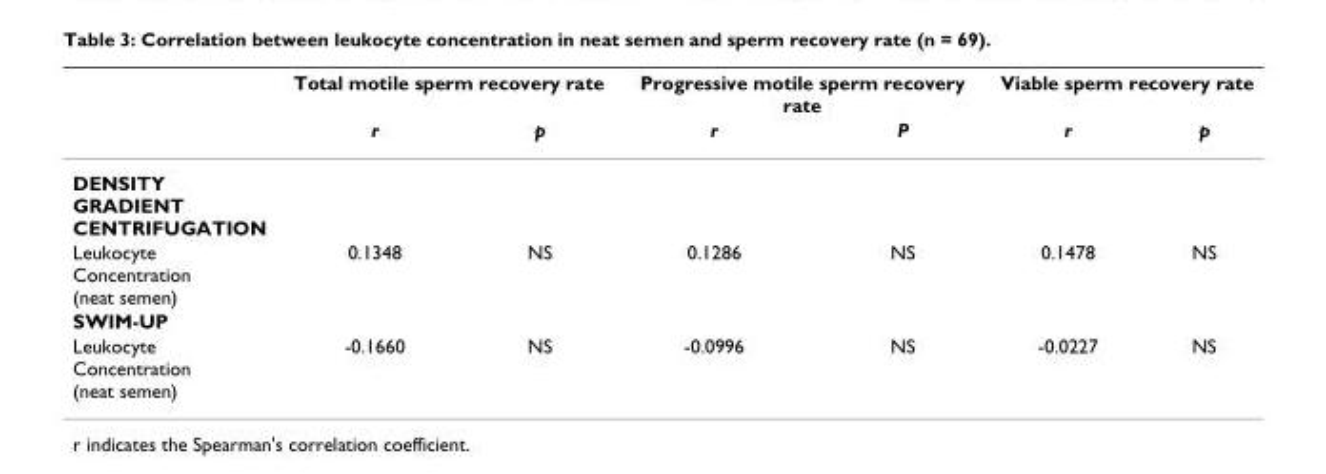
<table><thead><tr><td rowspan="2"></td><td colspan="2">Total motile sperm recovery rate</td><td colspan="2">Progressive motile sperm recovery rate</td><td colspan="2">Viable sperm recovery rate</td></tr><tr><td>r</td><td>p</td><td>r</td><td>P</td><td>r</td><td>p</td></tr></thead><tbody><tr><td colspan="7">DENSITY GRADIENT CENTRIFUGATION</td></tr><tr><td>Leukocyte Concentration (neat semen)</td><td>0.1348</td><td>NS</td><td>0.1286</td><td>NS</td><td>0.1478</td><td>NS</td></tr><tr><td colspan="7">SWIM-UP</td></tr><tr><td>Leukocyte Concentration (neat semen)</td><td>-0.1660</td><td>NS</td><td>-0.0996</td><td>NS</td><td>-0.0227</td><td>NS</td></tr></tbody></table>